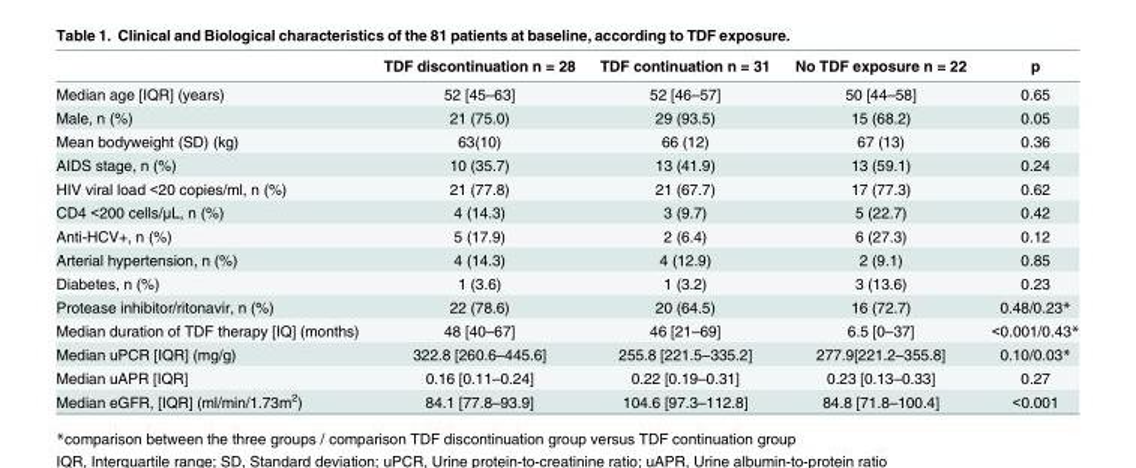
<table><thead><tr><td></td><td>TDF discontinuation n = 28</td><td>TDF continuation n = 31</td><td>No TDF exposure n = 22</td><td>p</td></tr></thead><tbody><tr><td>Median age [IQR] (years)</td><td>52 [45–63]</td><td>52 [46–57]</td><td>50 [44–58]</td><td>0.65</td></tr><tr><td>Male, n (%)</td><td>21 (75.0)</td><td>29 (93.5)</td><td>15 (68.2)</td><td>0.05</td></tr><tr><td>Mean bodyweight (SD) (kg)</td><td>63(10)</td><td>66 (12)</td><td>67 (13)</td><td>0.36</td></tr><tr><td>AIDS stage, n (%)</td><td>10 (35.7)</td><td>13 (41.9)</td><td>13 (59.1)</td><td>0.24</td></tr><tr><td>HIV viral load &lt;20 copies/ml, n (%)</td><td>21 (77.8)</td><td>21 (67.7)</td><td>17 (77.3)</td><td>0.62</td></tr><tr><td>CD4 &lt;200 cells/μL, n (%)</td><td>4 (14.3)</td><td>3 (9.7)</td><td>5 (22.7)</td><td>0.42</td></tr><tr><td>Anti-HCV+, n (%)</td><td>5 (17.9)</td><td>2 (6.4)</td><td>6 (27.3)</td><td>0.12</td></tr><tr><td>Arterial hypertension, n (%)</td><td>4 (14.3)</td><td>4 (12.9)</td><td>2 (9.1)</td><td>0.85</td></tr><tr><td>Diabetes, n (%)</td><td>1 (3.6)</td><td>1 (3.2)</td><td>3 (13.6)</td><td>0.23</td></tr><tr><td>Protease inhibitor/ritonavir, n (%)</td><td>22 (78.6)</td><td>20 (64.5)</td><td>16 (72.7)</td><td>0.48/0.23*</td></tr><tr><td>Median duration of TDF therapy [IQ] (months)</td><td>48 [40–67]</td><td>46 [21–69]</td><td>6.5 [0–37]</td><td>&lt;0.001/0.43*</td></tr><tr><td>Median uPCR [IQR] (mg/g)</td><td>322.8 [260.6–445.6]</td><td>255.8 [221.5–335.2]</td><td>277.9[221.2–355.8]</td><td>0.10/0.03*</td></tr><tr><td>Median uAPR [IQR]</td><td>0.16 [0.11–0.24]</td><td>0.22 [0.19–0.31]</td><td>0.23 [0.13–0.33]</td><td>0.27</td></tr><tr><td>Median eGFR, [IQR] (ml/min/1.73m<sup>2</sup>)</td><td>84.1 [77.8–93.9]</td><td>104.6 [97.3–112.8]</td><td>84.8 [71.8–100.4]</td><td>&lt;0.001</td></tr></tbody></table>